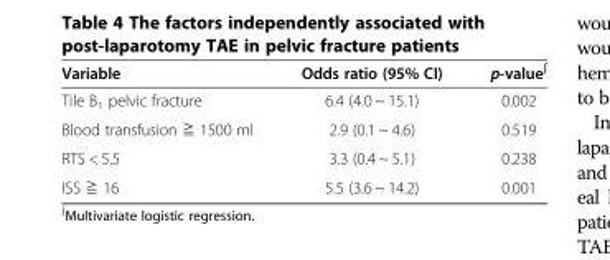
<table><thead><tr><td>Variable</td><td>Odds ratio (95% CI)</td><td>p-value<sup>∫</sup></td></tr></thead><tbody><tr><td>Tile B<sub>1</sub> pelvic fracture</td><td>6.4 (4.0 ~ 15.1)</td><td>0.002</td></tr><tr><td>Blood transfusion ≧ 1500 ml</td><td>2.9 (0.1 ~ 4.6)</td><td>0.519</td></tr><tr><td>RTS &lt; 5.5</td><td>3.3 (0.4 ~ 5.1)</td><td>0.238</td></tr><tr><td>ISS ≧ 16</td><td>5.5 (3.6 ~ 14.2)</td><td>0.001</td></tr></tbody></table>